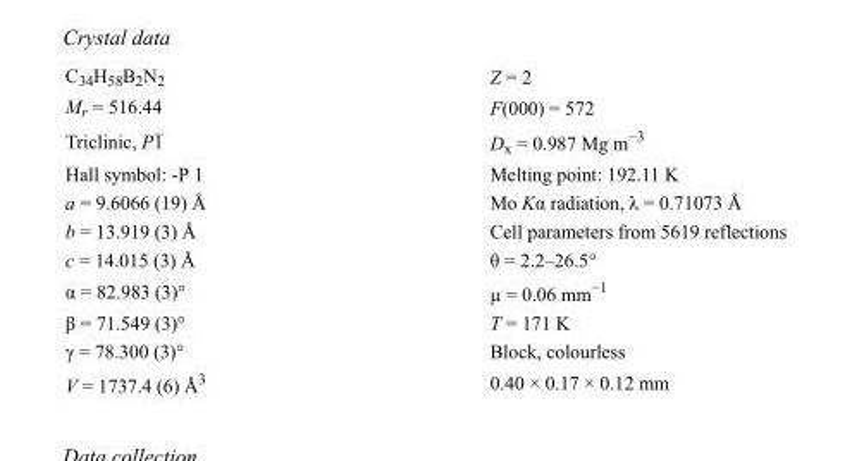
<table><tbody><tr><td>C<sub>34</sub>H<sub>58</sub>B<sub>2</sub>N<sub>2</sub></td><td>Z = 2</td></tr><tr><td>M<sub>r</sub> = 516.44</td><td>F(000) = 572</td></tr><tr><td>Triclinic, P1</td><td>D<sub>x</sub> = 0.987 Mg m<sup>−3</sup></td></tr><tr><td>Hall symbol: -P 1</td><td>Melting point: 192.11 K</td></tr><tr><td>a = 9.6066 (19) Å</td><td>Mo Kα radiation, λ = 0.71073 Å</td></tr><tr><td>b = 13.919 (3) Å</td><td>Cell parameters from 5619 reflections</td></tr><tr><td>c = 14.015 (3) Å</td><td>θ = 2.2–26.5°</td></tr><tr><td>α = 82.983 (3)°</td><td>µ = 0.06 mm<sup>−1</sup></td></tr><tr><td>β = 71.549 (3)°</td><td>T = 171 K</td></tr><tr><td>γ = 78.300 (3)°</td><td>Block, colourless</td></tr><tr><td>V = 1737.4 (6) Å<sup>3</sup></td><td>0.40 × 0.17 × 0.12 mm</td></tr></tbody></table>